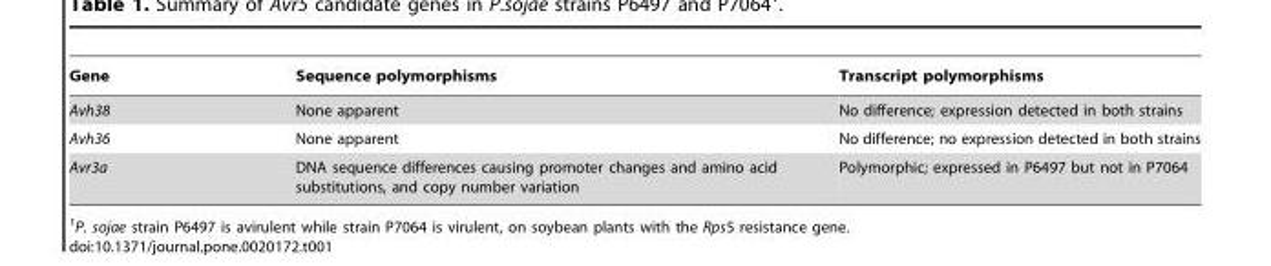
<table><thead><tr><td>Gene</td><td>Sequence polymorphisms</td><td>Transcript polymorphisms</td></tr></thead><tbody><tr><td>Avh38</td><td>None apparent</td><td>No difference; expression detected in both strains</td></tr><tr><td>Avh36</td><td>None apparent</td><td>No difference; no expression detected in both strains</td></tr><tr><td>Avr3a</td><td>DNA sequence differences causing promoter changes and amino acid substitutions, and copy number variation</td><td>Polymorphic; expressed in P6497 but not in P7064</td></tr></tbody></table>